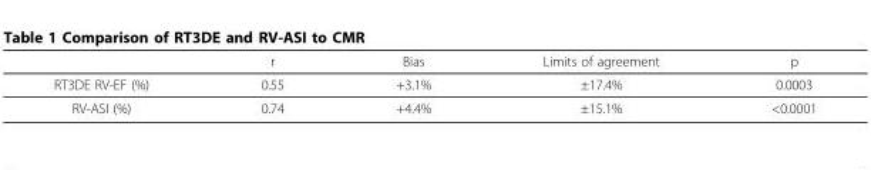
<table><thead><tr><td></td><td>r</td><td>Bias</td><td>Limits of agreement</td><td>p</td></tr></thead><tbody><tr><td>RT3DE RV-EF (%)</td><td>0.55</td><td>+3.1%</td><td>±17.4%</td><td>0.0003</td></tr><tr><td>RV-ASI (%)</td><td>0.74</td><td>+4.4%</td><td>±15.1%</td><td>&lt;0.0001</td></tr></tbody></table>